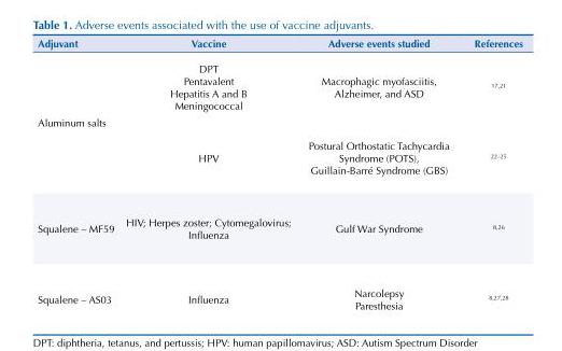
<table><thead><tr><td>Adjuvant</td><td>Vaccine</td><td>Adverse events studied</td><td>References</td></tr></thead><tbody><tr><td rowspan="2">Aluminum salts</td><td>DPT Pentavalent Hepatitis A and B Meningococcal</td><td>Macrophagic myofasciitis, Alzheimer, and ASD</td><td>17,21</td></tr><tr><td>HPV</td><td>Postural Orthostatic Tachycardia Syndrome (POTS), Guillain-Barré Syndrome (GBS)</td><td>22–25</td></tr><tr><td>Squalene – MF59</td><td>HIV; Herpes zoster; Cytomegalovirus; Influenza</td><td>Gulf War Syndrome</td><td>8,26</td></tr><tr><td>Squalene – AS03</td><td>Influenza</td><td>Narcolepsy Paresthesia</td><td>8,27,28</td></tr></tbody></table>